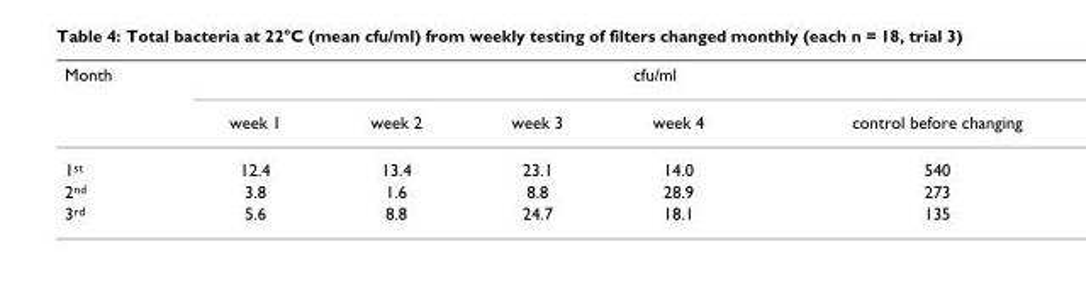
<table><thead><tr><td rowspan="2">Month</td><td colspan="5">cfu/ml</td></tr><tr><td>week 1</td><td>week 2</td><td>week 3</td><td>week 4</td><td>control before changing</td></tr></thead><tbody><tr><td>1<sup>st</sup></td><td>12.4</td><td>13.4</td><td>23.1</td><td>14.0</td><td>540</td></tr><tr><td>2<sup>nd</sup></td><td>3.8</td><td>1.6</td><td>8.8</td><td>28.9</td><td>273</td></tr><tr><td>3<sup>rd</sup></td><td>5.6</td><td>8.8</td><td>24.7</td><td>18.1</td><td>135</td></tr></tbody></table>